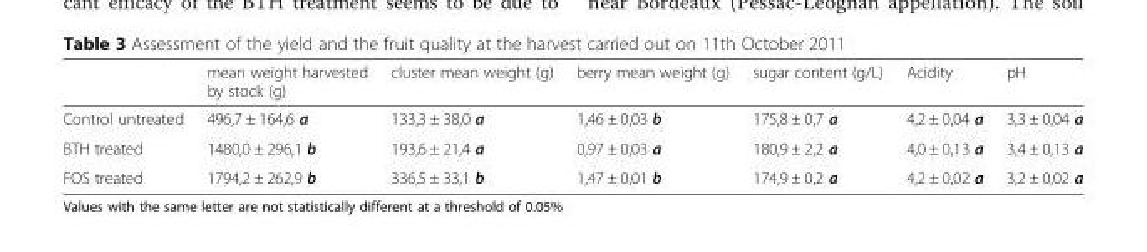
<table><thead><tr><td></td><td>mean weight harvested by stock (g)</td><td>cluster mean weight (g)</td><td>berry mean weight (g)</td><td>sugar content (g/L)</td><td>Acidity</td><td>pH</td></tr></thead><tbody><tr><td>Control untreated</td><td>496,7 ± 164,6 a</td><td>133,3 ± 38,0 a</td><td>1,46 ± 0,03 b</td><td>175,8 ± 0,7 a</td><td>4,2 ± 0,04 a</td><td>3,3 ± 0,04 a</td></tr><tr><td>BTH treated</td><td>1480,0 ± 296,1 b</td><td>193,6 ± 21,4 a</td><td>0,97 ± 0,03 a</td><td>180,9 ± 2,2 a</td><td>4,0 ± 0,13 a</td><td>3,4 ± 0,13 a</td></tr><tr><td>FOS treated</td><td>1794,2 ± 262,9 b</td><td>336,5 ± 33,1 b</td><td>1,47 ± 0,01 b</td><td>174,9 ± 0,2 a</td><td>4,2 ± 0,02 a</td><td>3,2 ± 0,02 a</td></tr></tbody></table>